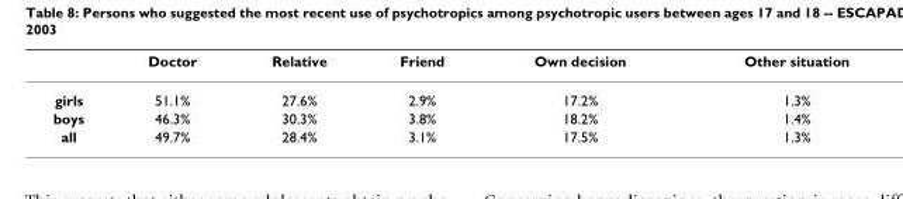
<table><thead><tr><td></td><td>Doctor</td><td>Relative</td><td>Friend</td><td>Own decision</td><td>Other situation</td></tr></thead><tbody><tr><td>girls</td><td>51.1%</td><td>27.6%</td><td>2.9%</td><td>17.2%</td><td>1.3%</td></tr><tr><td>boys</td><td>46.3%</td><td>30.3%</td><td>3.8%</td><td>18.2%</td><td>1.4%</td></tr><tr><td>all</td><td>49.7%</td><td>28.4%</td><td>3.1%</td><td>17.5%</td><td>1.3%</td></tr></tbody></table>